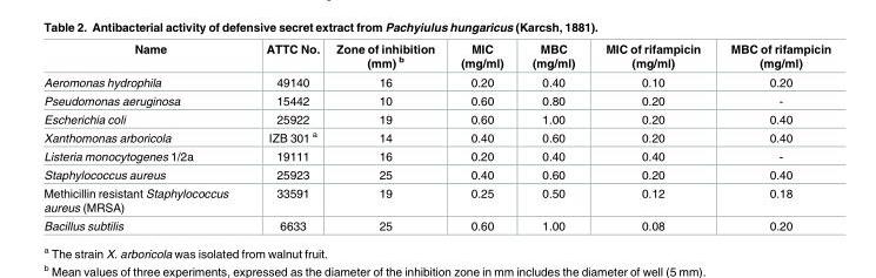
<table><thead><tr><td>Name</td><td>ATTC No.</td><td>Zone of inhibition (mm) <sup>b</sup></td><td>MIC (mg/ml)</td><td>MBC (mg/ml)</td><td>MIC of rifampicin (mg/ml)</td><td>MBC of rifampicin (mg/ml)</td></tr></thead><tbody><tr><td>Aeromonas hydrophila</td><td>49140</td><td>16</td><td>0.20</td><td>0.40</td><td>0.10</td><td>0.20</td></tr><tr><td>Pseudomonas aeruginosa</td><td>15442</td><td>10</td><td>0.60</td><td>0.80</td><td>0.20</td><td>-</td></tr><tr><td>Escherichia coli</td><td>25922</td><td>19</td><td>0.60</td><td>1.00</td><td>0.20</td><td>0.40</td></tr><tr><td>Xanthomonas arboricola</td><td>IZB 301 <sup>a</sup></td><td>14</td><td>0.40</td><td>0.60</td><td>0.20</td><td>0.40</td></tr><tr><td>Listeria monocytogenes 1/2a</td><td>19111</td><td>16</td><td>0.20</td><td>0.40</td><td>0.40</td><td>-</td></tr><tr><td>Staphylococcus aureus</td><td>25923</td><td>25</td><td>0.40</td><td>0.60</td><td>0.20</td><td>0.40</td></tr><tr><td>Methicillin resistant Staphylococcus aureus (MRSA)</td><td>33591</td><td>19</td><td>0.25</td><td>0.50</td><td>0.12</td><td>0.18</td></tr><tr><td>Bacillus subtilis</td><td>6633</td><td>25</td><td>0.60</td><td>1.00</td><td>0.08</td><td>0.20</td></tr></tbody></table>